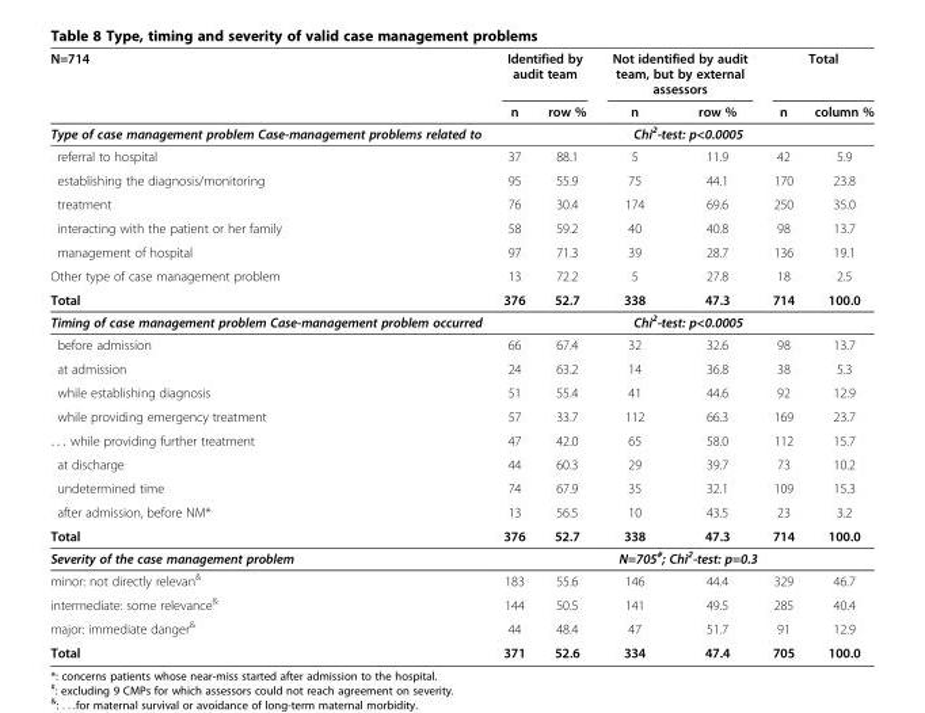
<table><thead><tr><td rowspan="2">N=714</td><td colspan="2">Identified by audit team</td><td colspan="2">Not identified by audit team, but by external assessors</td><td colspan="2">Total</td></tr><tr><td>n</td><td>row %</td><td>n</td><td>row %</td><td>n</td><td>column %</td></tr></thead><tbody><tr><td>Type of case management problem Case-management problems related to</td><td colspan="6">Chi<sup>2</sup>-test: p&lt;0.0005</td></tr><tr><td>referral to hospital</td><td>37</td><td>88.1</td><td>5</td><td>11.9</td><td>42</td><td>5.9</td></tr><tr><td>establishing the diagnosis/monitoring</td><td>95</td><td>55.9</td><td>75</td><td>44.1</td><td>170</td><td>23.8</td></tr><tr><td>treatment</td><td>76</td><td>30.4</td><td>174</td><td>69.6</td><td>250</td><td>35.0</td></tr><tr><td>interacting with the patient or her family</td><td>58</td><td>59.2</td><td>40</td><td>40.8</td><td>98</td><td>13.7</td></tr><tr><td>management of hospital</td><td>97</td><td>71.3</td><td>39</td><td>28.7</td><td>136</td><td>19.1</td></tr><tr><td>Other type of case management problem</td><td>13</td><td>72.2</td><td>5</td><td>27.8</td><td>18</td><td>2.5</td></tr><tr><td>Total</td><td>376</td><td>52.7</td><td>338</td><td>47.3</td><td>714</td><td>100.0</td></tr><tr><td>Timing of case management problem Case-management problem occurred</td><td colspan="6">Chi<sup>2</sup>-test: p&lt;0.0005</td></tr><tr><td>before admission</td><td>66</td><td>67.4</td><td>32</td><td>32.6</td><td>98</td><td>13.7</td></tr><tr><td>at admission</td><td>24</td><td>63.2</td><td>14</td><td>36.8</td><td>38</td><td>5.3</td></tr><tr><td>while establishing diagnosis</td><td>51</td><td>55.4</td><td>41</td><td>44.6</td><td>92</td><td>12.9</td></tr><tr><td>while providing emergency treatment</td><td>57</td><td>33.7</td><td>112</td><td>66.3</td><td>169</td><td>23.7</td></tr><tr><td>. . . while providing further treatment</td><td>47</td><td>42.0</td><td>65</td><td>58.0</td><td>112</td><td>15.7</td></tr><tr><td>at discharge</td><td>44</td><td>60.3</td><td>29</td><td>39.7</td><td>73</td><td>10.2</td></tr><tr><td>undetermined time</td><td>74</td><td>67.9</td><td>35</td><td>32.1</td><td>109</td><td>15.3</td></tr><tr><td>after admission, before NM*</td><td>13</td><td>56.5</td><td>10</td><td>43.5</td><td>23</td><td>3.2</td></tr><tr><td>Total</td><td>376</td><td>52.7</td><td>338</td><td>47.3</td><td>714</td><td>100.0</td></tr><tr><td>Severity of the case management problem</td><td colspan="6">N=705<sup>#</sup>; Chi<sup>2</sup>-test: p=0.3</td></tr><tr><td>minor: not directly relevan<sup>&amp;</sup></td><td>183</td><td>55.6</td><td>146</td><td>44.4</td><td>329</td><td>46.7</td></tr><tr><td>intermediate: some relevance<sup>&amp;</sup></td><td>144</td><td>50.5</td><td>141</td><td>49.5</td><td>285</td><td>40.4</td></tr><tr><td>major: immediate danger<sup>&amp;</sup></td><td>44</td><td>48.4</td><td>47</td><td>51.7</td><td>91</td><td>12.9</td></tr><tr><td>Total</td><td>371</td><td>52.6</td><td>334</td><td>47.4</td><td>705</td><td>100.0</td></tr></tbody></table>